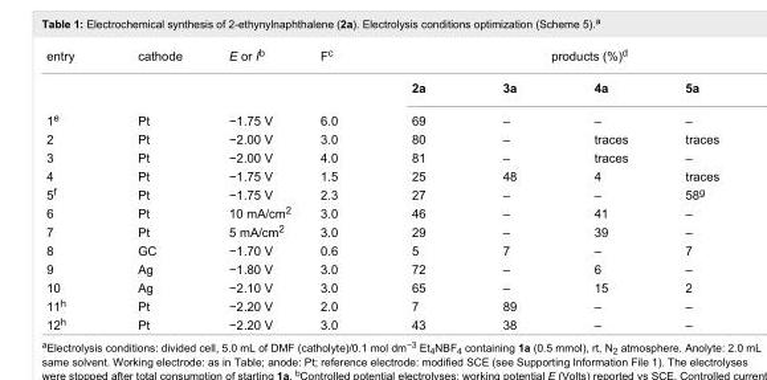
<table><tbody><tr><td rowspan="2">entry</td><td>cathode</td><td>E or I<sup>b</sup></td><td>F<sup>c</sup></td><td colspan="4">products (%)<sup>d</sup></td></tr><tr><td></td><td></td><td></td><td>2a</td><td>3a</td><td>4a</td><td>5a</td></tr><tr><td>1<sup>e</sup></td><td>Pt</td><td>−1.75 V</td><td>6.0</td><td>69</td><td>–</td><td>–</td><td>–</td></tr><tr><td>2</td><td>Pt</td><td>−2.00 V</td><td>3.0</td><td>80</td><td>–</td><td>traces</td><td>traces</td></tr><tr><td>3</td><td>Pt</td><td>−2.00 V</td><td>4.0</td><td>81</td><td>–</td><td>traces</td><td>–</td></tr><tr><td>4</td><td>Pt</td><td>−1.75 V</td><td>1.5</td><td>25</td><td>48</td><td>4</td><td>traces</td></tr><tr><td>5<sup>f</sup></td><td>Pt</td><td>−1.75 V</td><td>2.3</td><td>27</td><td>–</td><td>–</td><td>58<sup>g</sup></td></tr><tr><td>6</td><td>Pt</td><td>10 mA/cm<sup>2</sup></td><td>3.0</td><td>46</td><td>–</td><td>41</td><td>–</td></tr><tr><td>7</td><td>Pt</td><td>5 mA/cm<sup>2</sup></td><td>3.0</td><td>29</td><td>–</td><td>39</td><td>–</td></tr><tr><td>8</td><td>GC</td><td>−1.70 V</td><td>0.6</td><td>5</td><td>7</td><td>–</td><td>7</td></tr><tr><td>9</td><td>Ag</td><td>−1.80 V</td><td>3.0</td><td>72</td><td>–</td><td>6</td><td>–</td></tr><tr><td>10</td><td>Ag</td><td>−2.10 V</td><td>3.0</td><td>65</td><td>–</td><td>15</td><td>2</td></tr><tr><td>11<sup>h</sup></td><td>Pt</td><td>−2.20 V</td><td>2.0</td><td>7</td><td>89</td><td>–</td><td>–</td></tr><tr><td>12<sup>h</sup></td><td>Pt</td><td>−2.20 V</td><td>3.0</td><td>43</td><td>38</td><td>–</td><td>–</td></tr></tbody></table>